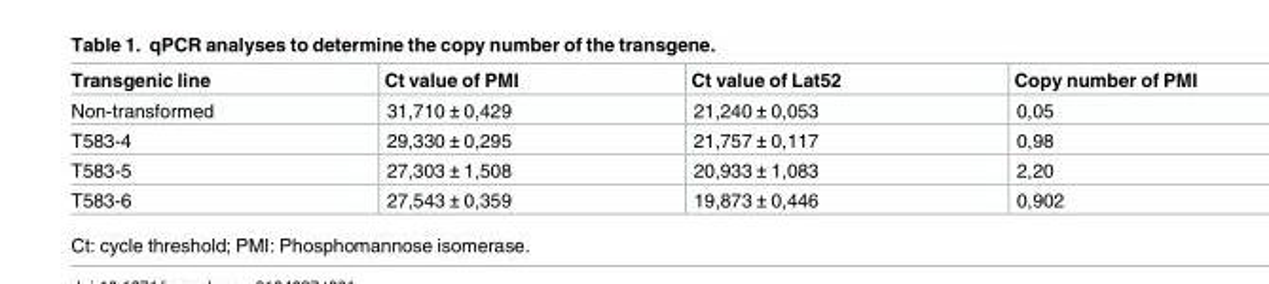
<table><thead><tr><td>Transgenic line</td><td>Ct value of PMI</td><td>Ct value of Lat52</td><td>Copy number of PMI</td></tr></thead><tbody><tr><td>Non-transformed</td><td>31,710 ± 0,429</td><td>21,240 ± 0,053</td><td>0,05</td></tr><tr><td>T583-4</td><td>29,330 ± 0,295</td><td>21,757 ± 0,117</td><td>0,98</td></tr><tr><td>T583-5</td><td>27,303 ± 1,508</td><td>20,933 ± 1,083</td><td>2,20</td></tr><tr><td>T583-6</td><td>27,543 ± 0,359</td><td>19,873 ± 0,446</td><td>0,902</td></tr></tbody></table>